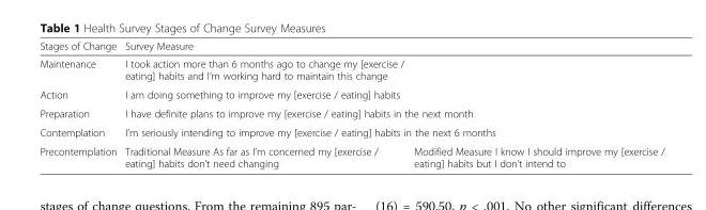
<table><thead><tr><td>Stages of Change</td><td colspan="2">Survey Measure</td></tr></thead><tbody><tr><td>Maintenance</td><td colspan="2">I took action more than 6 months ago to change my [exercise / eating] habits and I’m working hard to maintain this change</td></tr><tr><td>Action</td><td colspan="2">I am doing something to improve my [exercise / eating] habits</td></tr><tr><td>Preparation</td><td colspan="2">I have definite plans to improve my [exercise / eating] habits in the next month</td></tr><tr><td>Contemplation</td><td colspan="2">I’m seriously intending to improve my [exercise / eating] habits in the next 6 months</td></tr><tr><td>Precontemplation</td><td>Traditional Measure As far as I’m concerned my [exercise / eating] habits don’t need changing</td><td>Modified Measure I know I should improve my [exercise / eating] habits but I don’t intend to</td></tr></tbody></table>